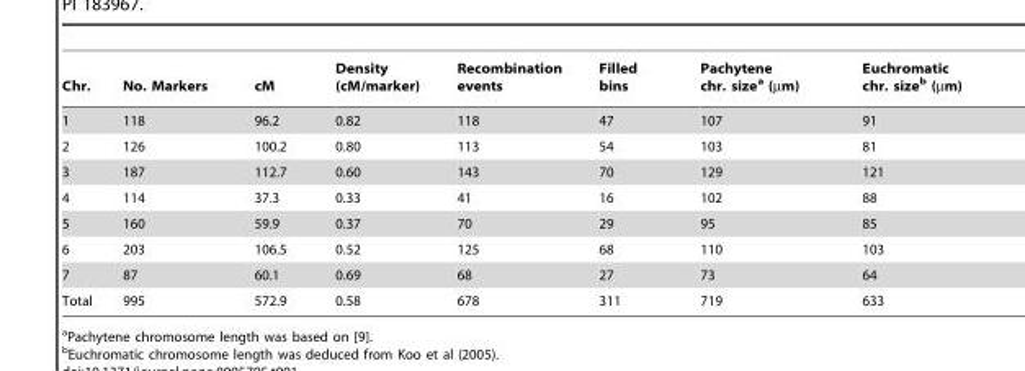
<table><thead><tr><td>Chr.</td><td>No. Markers</td><td>cM</td><td>Density (cM/marker)</td><td>Recombination events</td><td>Filled bins</td><td>Pachytene chr. size<sup>a</sup> (µm)</td><td>Euchromatic chr. size<sup>b</sup> (µm)</td></tr></thead><tbody><tr><td>1</td><td>118</td><td>96.2</td><td>0.82</td><td>118</td><td>47</td><td>107</td><td>91</td></tr><tr><td>2</td><td>126</td><td>100.2</td><td>0.80</td><td>113</td><td>54</td><td>103</td><td>81</td></tr><tr><td>3</td><td>187</td><td>112.7</td><td>0.60</td><td>143</td><td>70</td><td>129</td><td>121</td></tr><tr><td>4</td><td>114</td><td>37.3</td><td>0.33</td><td>41</td><td>16</td><td>102</td><td>88</td></tr><tr><td>5</td><td>160</td><td>59.9</td><td>0.37</td><td>70</td><td>29</td><td>95</td><td>85</td></tr><tr><td>6</td><td>203</td><td>106.5</td><td>0.52</td><td>125</td><td>68</td><td>110</td><td>103</td></tr><tr><td>7</td><td>87</td><td>60.1</td><td>0.69</td><td>68</td><td>27</td><td>73</td><td>64</td></tr><tr><td>Total</td><td>995</td><td>572.9</td><td>0.58</td><td>678</td><td>311</td><td>719</td><td>633</td></tr></tbody></table>